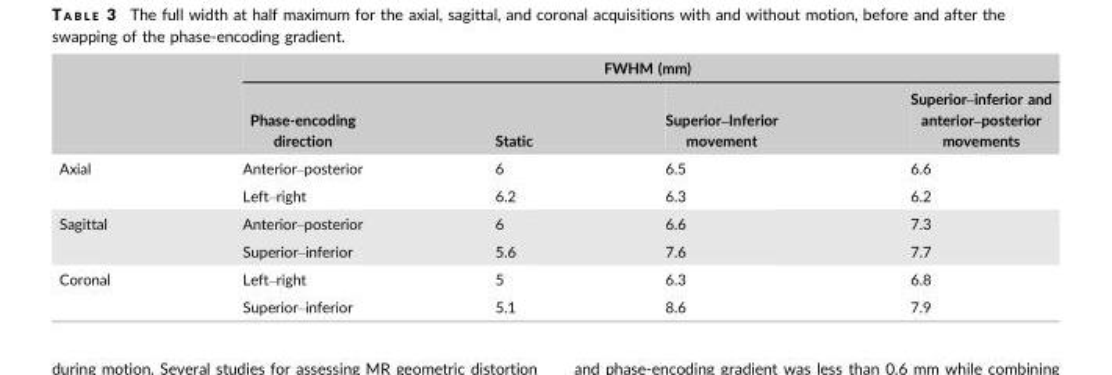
<table><thead><tr><td rowspan="2"></td><td colspan="4">FWHM (mm)</td></tr><tr><td>Phase-encoding direction</td><td>Static</td><td>Superior–Inferior movement</td><td>Superior–inferior and anterior–posterior movements</td></tr></thead><tbody><tr><td rowspan="2">Axial</td><td>Anterior–posterior</td><td>6</td><td>6.5</td><td>6.6</td></tr><tr><td>Left–right</td><td>6.2</td><td>6.3</td><td>6.2</td></tr><tr><td rowspan="2">Sagittal</td><td>Anterior–posterior</td><td>6</td><td>6.6</td><td>7.3</td></tr><tr><td>Superior–inferior</td><td>5.6</td><td>7.6</td><td>7.7</td></tr><tr><td rowspan="2">Coronal</td><td>Left–right</td><td>5</td><td>6.3</td><td>6.8</td></tr><tr><td>Superior–inferior</td><td>5.1</td><td>8.6</td><td>7.9</td></tr></tbody></table>